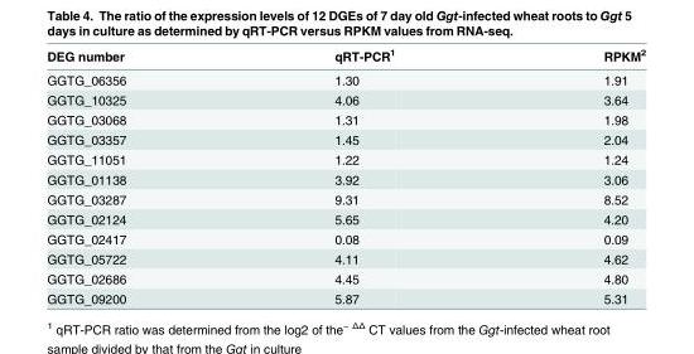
<table><thead><tr><td>DEG number</td><td>qRT-PCR<sup>1</sup></td><td>RPKM<sup>2</sup></td></tr></thead><tbody><tr><td>GGTG_06356</td><td>1.30</td><td>1.91</td></tr><tr><td>GGTG_10325</td><td>4.06</td><td>3.64</td></tr><tr><td>GGTG_03068</td><td>1.31</td><td>1.98</td></tr><tr><td>GGTG_03357</td><td>1.45</td><td>2.04</td></tr><tr><td>GGTG_11051</td><td>1.22</td><td>1.24</td></tr><tr><td>GGTG_01138</td><td>3.92</td><td>3.06</td></tr><tr><td>GGTG_03287</td><td>9.31</td><td>8.52</td></tr><tr><td>GGTG_02124</td><td>5.65</td><td>4.20</td></tr><tr><td>GGTG_02417</td><td>0.08</td><td>0.09</td></tr><tr><td>GGTG_05722</td><td>4.11</td><td>4.62</td></tr><tr><td>GGTG_02686</td><td>4.45</td><td>4.80</td></tr><tr><td>GGTG_09200</td><td>5.87</td><td>5.31</td></tr></tbody></table>